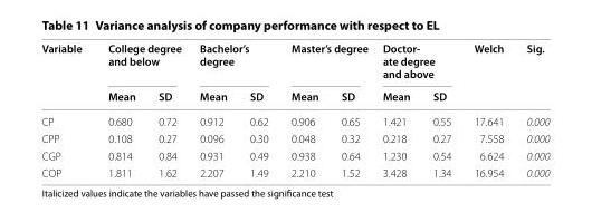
<table><thead><tr><td rowspan="2">Variable</td><td colspan="2">College degree and below</td><td colspan="2">Bachelor’s degree</td><td colspan="2">Master’s degree</td><td colspan="2">Doctor- ate degree and above</td><td rowspan="2">Welch</td><td rowspan="2">Sig.</td></tr><tr><td>Mean</td><td>SD</td><td>Mean</td><td>SD</td><td>Mean</td><td>SD</td><td>Mean</td><td>SD</td></tr></thead><tbody><tr><td>CP</td><td>0.680</td><td>0.72</td><td>0.912</td><td>0.62</td><td>0.906</td><td>0.65</td><td>1.421</td><td>0.55</td><td>17.641</td><td>0.000</td></tr><tr><td>CPP</td><td>0.108</td><td>0.27</td><td>0.096</td><td>0.30</td><td>0.048</td><td>0.32</td><td>0.218</td><td>0.27</td><td>7.558</td><td>0.000</td></tr><tr><td>CGP</td><td>0.814</td><td>0.84</td><td>0.931</td><td>0.49</td><td>0.938</td><td>0.64</td><td>1.230</td><td>0.54</td><td>6.624</td><td>0.000</td></tr><tr><td>COP</td><td>1.811</td><td>1.62</td><td>2.207</td><td>1.49</td><td>2.210</td><td>1.52</td><td>3.428</td><td>1.34</td><td>16.954</td><td>0.000</td></tr></tbody></table>